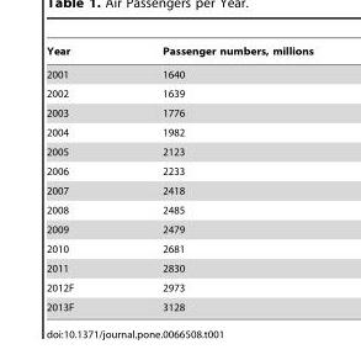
<table><thead><tr><td>Year</td><td>Passenger numbers, millions</td></tr></thead><tbody><tr><td>2001</td><td>1640</td></tr><tr><td>2002</td><td>1639</td></tr><tr><td>2003</td><td>1776</td></tr><tr><td>2004</td><td>1982</td></tr><tr><td>2005</td><td>2123</td></tr><tr><td>2006</td><td>2233</td></tr><tr><td>2007</td><td>2418</td></tr><tr><td>2008</td><td>2485</td></tr><tr><td>2009</td><td>2479</td></tr><tr><td>2010</td><td>2681</td></tr><tr><td>2011</td><td>2830</td></tr><tr><td>2012F</td><td>2973</td></tr><tr><td>2013F</td><td>3128</td></tr></tbody></table>